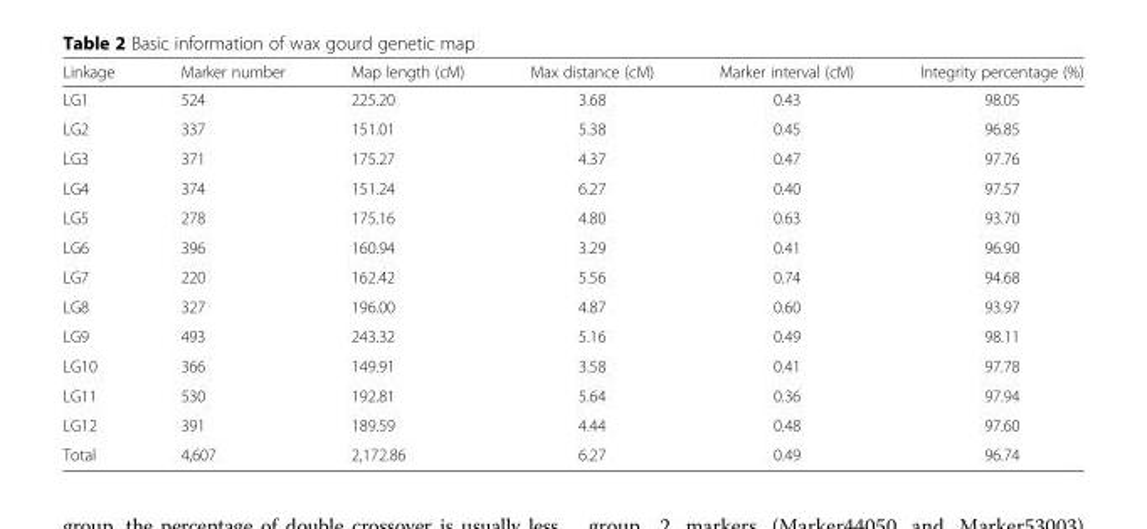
<table><thead><tr><td>Linkage</td><td>Marker number</td><td>Map length (cM)</td><td>Max distance (cM)</td><td>Marker interval (cM)</td><td>Integrity percentage (%)</td></tr></thead><tbody><tr><td>LG1</td><td>524</td><td>225.20</td><td>3.68</td><td>0.43</td><td>98.05</td></tr><tr><td>LG2</td><td>337</td><td>151.01</td><td>5.38</td><td>0.45</td><td>96.85</td></tr><tr><td>LG3</td><td>371</td><td>175.27</td><td>4.37</td><td>0.47</td><td>97.76</td></tr><tr><td>LG4</td><td>374</td><td>151.24</td><td>6.27</td><td>0.40</td><td>97.57</td></tr><tr><td>LG5</td><td>278</td><td>175.16</td><td>4.80</td><td>0.63</td><td>93.70</td></tr><tr><td>LG6</td><td>396</td><td>160.94</td><td>3.29</td><td>0.41</td><td>96.90</td></tr><tr><td>LG7</td><td>220</td><td>162.42</td><td>5.56</td><td>0.74</td><td>94.68</td></tr><tr><td>LG8</td><td>327</td><td>196.00</td><td>4.87</td><td>0.60</td><td>93.97</td></tr><tr><td>LG9</td><td>493</td><td>243.32</td><td>5.16</td><td>0.49</td><td>98.11</td></tr><tr><td>LG10</td><td>366</td><td>149.91</td><td>3.58</td><td>0.41</td><td>97.78</td></tr><tr><td>LG11</td><td>530</td><td>192.81</td><td>5.64</td><td>0.36</td><td>97.94</td></tr><tr><td>LG12</td><td>391</td><td>189.59</td><td>4.44</td><td>0.48</td><td>97.60</td></tr><tr><td>Total</td><td>4,607</td><td>2,172.86</td><td>6.27</td><td>0.49</td><td>96.74</td></tr></tbody></table>